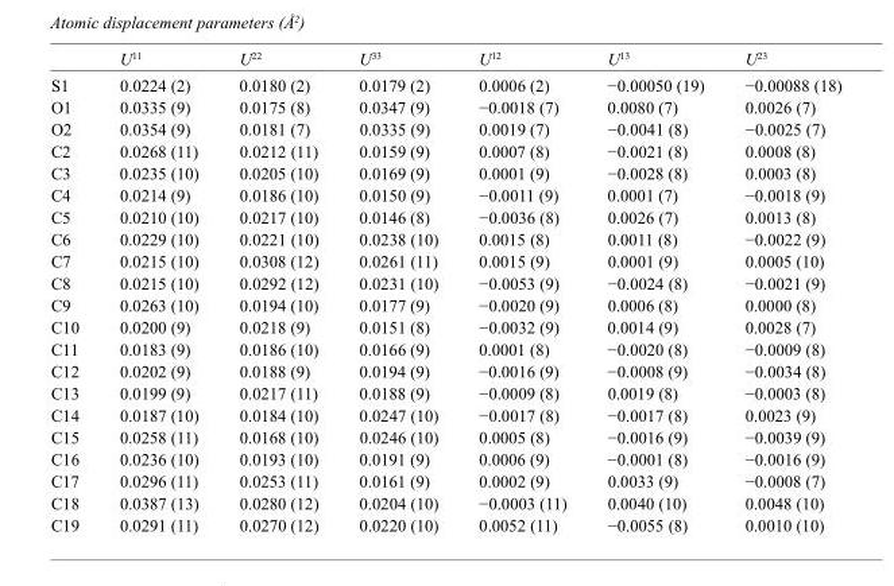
<table><thead><tr><td></td><td>U<sup>11</sup></td><td>U<sup>22</sup></td><td>U<sup>33</sup></td><td>U<sup>12</sup></td><td>U<sup>13</sup></td><td>U<sup>23</sup></td></tr></thead><tbody><tr><td>S1</td><td>0.0224 (2)</td><td>0.0180 (2)</td><td>0.0179 (2)</td><td>0.0006 (2)</td><td>−0.00050 (19)</td><td>−0.00088 (18)</td></tr><tr><td>O1</td><td>0.0335 (9)</td><td>0.0175 (8)</td><td>0.0347 (9)</td><td>−0.0018 (7)</td><td>0.0080 (7)</td><td>0.0026 (7)</td></tr><tr><td>O2</td><td>0.0354 (9)</td><td>0.0181 (7)</td><td>0.0335 (9)</td><td>0.0019 (7)</td><td>−0.0041 (8)</td><td>−0.0025 (7)</td></tr><tr><td>C2</td><td>0.0268 (11)</td><td>0.0212 (11)</td><td>0.0159 (9)</td><td>0.0007 (8)</td><td>−0.0021 (8)</td><td>0.0008 (8)</td></tr><tr><td>C3</td><td>0.0235 (10)</td><td>0.0205 (10)</td><td>0.0169 (9)</td><td>0.0001 (9)</td><td>−0.0028 (8)</td><td>0.0003 (8)</td></tr><tr><td>C4</td><td>0.0214 (9)</td><td>0.0186 (10)</td><td>0.0150 (9)</td><td>−0.0011 (9)</td><td>0.0001 (7)</td><td>−0.0018 (9)</td></tr><tr><td>C5</td><td>0.0210 (10)</td><td>0.0217 (10)</td><td>0.0146 (8)</td><td>−0.0036 (8)</td><td>0.0026 (7)</td><td>0.0013 (8)</td></tr><tr><td>C6</td><td>0.0229 (10)</td><td>0.0221 (10)</td><td>0.0238 (10)</td><td>0.0015 (8)</td><td>0.0011 (8)</td><td>−0.0022 (9)</td></tr><tr><td>C7</td><td>0.0215 (10)</td><td>0.0308 (12)</td><td>0.0261 (11)</td><td>0.0015 (9)</td><td>0.0001 (9)</td><td>0.0005 (10)</td></tr><tr><td>C8</td><td>0.0215 (10)</td><td>0.0292 (12)</td><td>0.0231 (10)</td><td>−0.0053 (9)</td><td>−0.0024 (8)</td><td>−0.0021 (9)</td></tr><tr><td>C9</td><td>0.0263 (10)</td><td>0.0194 (10)</td><td>0.0177 (9)</td><td>−0.0020 (9)</td><td>0.0006 (8)</td><td>0.0000 (8)</td></tr><tr><td>C10</td><td>0.0200 (9)</td><td>0.0218 (9)</td><td>0.0151 (8)</td><td>−0.0032 (9)</td><td>0.0014 (9)</td><td>0.0028 (7)</td></tr><tr><td>C11</td><td>0.0183 (9)</td><td>0.0186 (10)</td><td>0.0166 (9)</td><td>0.0001 (8)</td><td>−0.0020 (8)</td><td>−0.0009 (8)</td></tr><tr><td>C12</td><td>0.0202 (9)</td><td>0.0188 (9)</td><td>0.0194 (9)</td><td>−0.0016 (9)</td><td>−0.0008 (9)</td><td>−0.0034 (8)</td></tr><tr><td>C13</td><td>0.0199 (9)</td><td>0.0217 (11)</td><td>0.0188 (9)</td><td>−0.0009 (8)</td><td>0.0019 (8)</td><td>−0.0003 (8)</td></tr><tr><td>C14</td><td>0.0187 (10)</td><td>0.0184 (10)</td><td>0.0247 (10)</td><td>−0.0017 (8)</td><td>−0.0017 (8)</td><td>0.0023 (9)</td></tr><tr><td>C15</td><td>0.0258 (11)</td><td>0.0168 (10)</td><td>0.0246 (10)</td><td>0.0005 (8)</td><td>−0.0016 (9)</td><td>−0.0039 (9)</td></tr><tr><td>C16</td><td>0.0236 (10)</td><td>0.0193 (10)</td><td>0.0191 (9)</td><td>0.0006 (9)</td><td>−0.0001 (8)</td><td>−0.0016 (9)</td></tr><tr><td>C17</td><td>0.0296 (11)</td><td>0.0253 (11)</td><td>0.0161 (9)</td><td>0.0002 (9)</td><td>0.0033 (9)</td><td>−0.0008 (7)</td></tr><tr><td>C18</td><td>0.0387 (13)</td><td>0.0280 (12)</td><td>0.0204 (10)</td><td>−0.0003 (11)</td><td>0.0040 (10)</td><td>0.0048 (10)</td></tr><tr><td>C19</td><td>0.0291 (11)</td><td>0.0270 (12)</td><td>0.0220 (10)</td><td>0.0052 (11)</td><td>−0.0055 (8)</td><td>0.0010 (10)</td></tr></tbody></table>